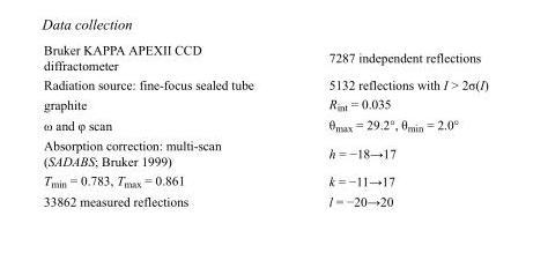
<table><tbody><tr><td>Bruker KAPPA APEXII CCD diffractometer</td><td>7287 independent reflections</td></tr><tr><td>Radiation source: fine-focus sealed tube</td><td>5132 reflections with I &gt; 2σ(I)</td></tr><tr><td>graphite</td><td>R<sub>int</sub> = 0.035</td></tr><tr><td>ω and φ scan</td><td>θ<sub>max</sub> = 29.2°, θ<sub>min</sub> = 2.0°</td></tr><tr><td>Absorption correction: multi-scan (SADABS; Bruker 1999)</td><td>h = −18→17</td></tr><tr><td>T<sub>min</sub> = 0.783, T<sub>max</sub> = 0.861</td><td>k = −11→17</td></tr><tr><td>33862 measured reflections</td><td>l = −20→20</td></tr></tbody></table>